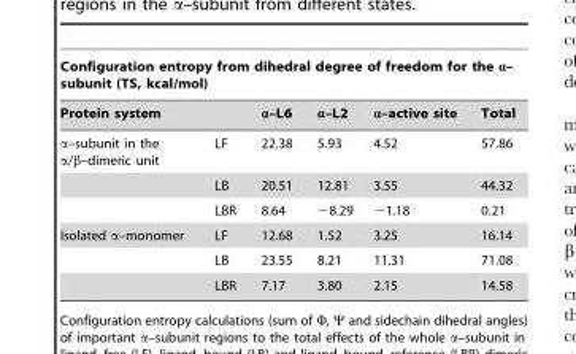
<table><thead><tr><td colspan="6">Configuration entropy from dihedral degree of freedom for the α– subunit (TS, kcal/mol)</td></tr><tr><td colspan="2">Protein system</td><td rowspan="2">α–L6 22.38</td><td rowspan="2">α–L2 5.93</td><td rowspan="2">α–active site 4.52</td><td rowspan="2">Total 57.86</td></tr><tr><td>α–subunit in the α/β–dimeric unit</td><td>LF</td></tr></thead><tbody><tr><td></td><td>LB</td><td>20.51</td><td>12.81</td><td>3.55</td><td>44.32</td></tr><tr><td></td><td>LBR</td><td>8.64</td><td>−8.29</td><td>−1.18</td><td>0.21</td></tr><tr><td rowspan="3">Isolated α–monomer</td><td>LF</td><td>12.68</td><td>1.52</td><td>3.25</td><td>16.14</td></tr><tr><td>LB</td><td>23.55</td><td>8.21</td><td>11.31</td><td>71.08</td></tr><tr><td>LBR</td><td>7.17</td><td>3.80</td><td>2.15</td><td>14.58</td></tr></tbody></table>